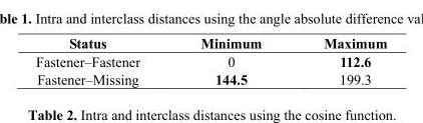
<table><thead><tr><td>Status</td><td>Minimum</td><td>Maximum</td></tr></thead><tbody><tr><td>Fastener–Fastener</td><td>0</td><td>112.6</td></tr><tr><td>Fastener–Missing</td><td>144.5</td><td>199.3</td></tr></tbody></table>